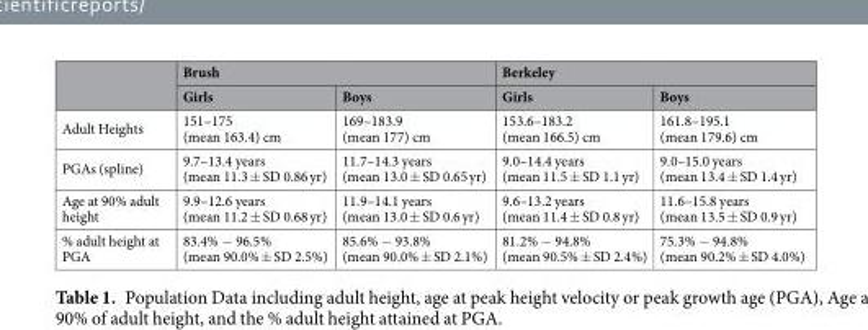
<table><thead><tr><td rowspan="2"></td><td colspan="2">Brush</td><td colspan="2">Berkeley</td></tr><tr><td>Girls</td><td>Boys</td><td>Girls</td><td>Boys</td></tr></thead><tbody><tr><td>Adult Heights</td><td>151–175 (mean 163.4) cm</td><td>169–183.9 (mean 177) cm</td><td>153.6–183.2 (mean 166.5) cm</td><td>161.8–195.1 (mean 179.6) cm</td></tr><tr><td>PGAs (spline)</td><td>9.7–13.4 years (mean 11.3 ± SD 0.86 yr)</td><td>11.7–14.3 years (mean 13.0 ± SD 0.65 yr)</td><td>9.0–14.4 years (mean 11.5 ± SD 1.1 yr)</td><td>9.0–15.0 years (mean 13.4 ± SD 1.4 yr)</td></tr><tr><td>Age at 90% adult height</td><td>9.9–12.6 years (mean 11.2 ± SD 0.68 yr)</td><td>11.9–14.1 years (mean 13.0 ± SD 0.6 yr)</td><td>9.6–13.2 years (mean 11.4 ± SD 0.8 yr)</td><td>11.6–15.8 years (mean 13.5 ± SD 0.9 yr)</td></tr><tr><td>% adult height at PGA</td><td>83.4% − 96.5% (mean 90.0% ± SD 2.5%)</td><td>85.6% − 93.8% (mean 90.0% ± SD 2.1%)</td><td>81.2% − 94.8% (mean 90.5% ± SD 2.4%)</td><td>75.3% − 94.8% (mean 90.2% ± SD 4.0%)</td></tr></tbody></table>